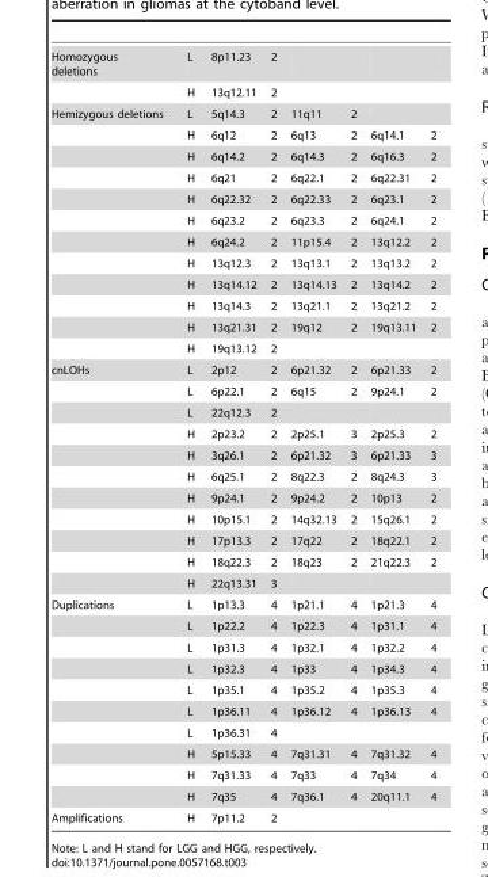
<table><tbody><tr><td rowspan="2">Homozygous deletions</td><td>L</td><td>8p11.23</td><td>2</td><td></td><td></td><td></td><td></td></tr><tr><td>H</td><td>13q12.11</td><td>2</td><td></td><td></td><td></td><td></td></tr><tr><td rowspan="12">Hemizygous deletions</td><td>L</td><td>5q14.3</td><td>2</td><td>11q11</td><td>2</td><td></td><td></td></tr><tr><td>H</td><td>6q12</td><td>2</td><td>6q13</td><td>2</td><td>6q14.1</td><td>2</td></tr><tr><td>H</td><td>6q14.2</td><td>2</td><td>6q14.3</td><td>2</td><td>6q16.3</td><td>2</td></tr><tr><td>H</td><td>6q21</td><td>2</td><td>6q22.1</td><td>2</td><td>6q22.31</td><td>2</td></tr><tr><td>H</td><td>6q22.32</td><td>2</td><td>6q22.33</td><td>2</td><td>6q23.1</td><td>2</td></tr><tr><td>H</td><td>6q23.2</td><td>2</td><td>6q23.3</td><td>2</td><td>6q24.1</td><td>2</td></tr><tr><td>H</td><td>6q24.2</td><td>2</td><td>11p15.4</td><td>2</td><td>13q12.2</td><td>2</td></tr><tr><td>H</td><td>13q12.3</td><td>2</td><td>13q13.1</td><td>2</td><td>13q13.2</td><td>2</td></tr><tr><td>H</td><td>13q14.12</td><td>2</td><td>13q14.13</td><td>2</td><td>13q14.2</td><td>2</td></tr><tr><td>H</td><td>13q14.3</td><td>2</td><td>13q21.1</td><td>2</td><td>13q21.2</td><td>2</td></tr><tr><td>H</td><td>13q21.31</td><td>2</td><td>19q12</td><td>2</td><td>19q13.11</td><td>2</td></tr><tr><td>H</td><td>19q13.12</td><td>2</td><td></td><td></td><td></td><td></td></tr><tr><td rowspan="11">cnLOHs</td><td>L</td><td>2p12</td><td>2</td><td>6p21.32</td><td>2</td><td>6p21.33</td><td>2</td></tr><tr><td>L</td><td>6p22.1</td><td>2</td><td>6q15</td><td>2</td><td>9p24.1</td><td>2</td></tr><tr><td>L</td><td>22q12.3</td><td>2</td><td></td><td></td><td></td><td></td></tr><tr><td>H</td><td>2p23.2</td><td>2</td><td>2p25.1</td><td>3</td><td>2p25.3</td><td>2</td></tr><tr><td>H</td><td>3q26.1</td><td>2</td><td>6p21.32</td><td>3</td><td>6p21.33</td><td>3</td></tr><tr><td>H</td><td>6q25.1</td><td>2</td><td>8q22.3</td><td>2</td><td>8q24.3</td><td>3</td></tr><tr><td>H</td><td>9p24.1</td><td>2</td><td>9p24.2</td><td>2</td><td>10p13</td><td>2</td></tr><tr><td>H</td><td>10p15.1</td><td>2</td><td>14q32.13</td><td>2</td><td>15q26.1</td><td>2</td></tr><tr><td>H</td><td>17p13.3</td><td>2</td><td>17q22</td><td>2</td><td>18q22.1</td><td>2</td></tr><tr><td>H</td><td>18q22.3</td><td>2</td><td>18q23</td><td>2</td><td>21q22.3</td><td>2</td></tr><tr><td>H</td><td>22q13.31</td><td>3</td><td></td><td></td><td></td><td></td></tr><tr><td rowspan="10">Duplications</td><td>L</td><td>1p13.3</td><td>4</td><td>1p21.1</td><td>4</td><td>1p21.3</td><td>4</td></tr><tr><td>L</td><td>1p22.2</td><td>4</td><td>1p22.3</td><td>4</td><td>1p31.1</td><td>4</td></tr><tr><td>L</td><td>1p31.3</td><td>4</td><td>1p32.1</td><td>4</td><td>1p32.2</td><td>4</td></tr><tr><td>L</td><td>1p32.3</td><td>4</td><td>1p33</td><td>4</td><td>1p34.3</td><td>4</td></tr><tr><td>L</td><td>1p35.1</td><td>4</td><td>1p35.2</td><td>4</td><td>1p35.3</td><td>4</td></tr><tr><td>L</td><td>1p36.11</td><td>4</td><td>1p36.12</td><td>4</td><td>1p36.13</td><td>4</td></tr><tr><td>L</td><td>1p36.31</td><td>4</td><td></td><td></td><td></td><td></td></tr><tr><td>H</td><td>5p15.33</td><td>4</td><td>7q31.31</td><td>4</td><td>7q31.32</td><td>4</td></tr><tr><td>H</td><td>7q31.33</td><td>4</td><td>7q33</td><td>4</td><td>7q34</td><td>4</td></tr><tr><td>H</td><td>7q35</td><td>4</td><td>7q36.1</td><td>4</td><td>20q11.1</td><td>4</td></tr><tr><td>Amplifications</td><td>H</td><td>7p11.2</td><td>2</td><td></td><td></td><td></td><td></td></tr></tbody></table>